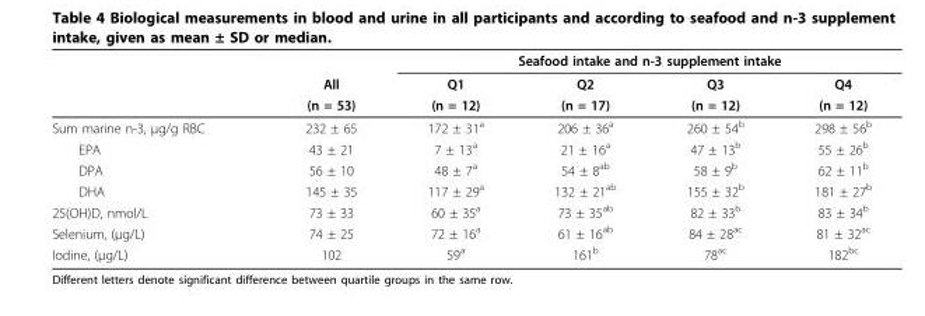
<table><thead><tr><td rowspan="3"></td><td rowspan="3">All (n = 53)</td><td colspan="4">Seafood intake and n-3 supplement intake</td></tr><tr><td rowspan="2">Q1 (n = 12)</td><td rowspan="2">Q2 (n = 17)</td><td rowspan="2">Q3 (n = 12)</td><td rowspan="2">Q4 (n = 12)</td></tr><tr></tr></thead><tbody><tr><td>Sum marine n-3, μg/g RBC</td><td>232 ± 65</td><td>172 ± 31<sup>a</sup></td><td>206 ± 36<sup>a</sup></td><td>260 ± 54<sup>b</sup></td><td>298 ± 56<sup>b</sup></td></tr><tr><td>EPA</td><td>43 ± 21</td><td>7 ± 13<sup>a</sup></td><td>21 ± 16<sup>a</sup></td><td>47 ± 13<sup>b</sup></td><td>55 ± 26<sup>b</sup></td></tr><tr><td>DPA</td><td>56 ± 10</td><td>48 ± 7<sup>a</sup></td><td>54 ± 8<sup>ab</sup></td><td>58 ± 9<sup>b</sup></td><td>62 ± 11<sup>b</sup></td></tr><tr><td>DHA</td><td>145 ± 35</td><td>117 ± 29<sup>a</sup></td><td>132 ± 21<sup>ab</sup></td><td>155 ± 32<sup>b</sup></td><td>181 ± 27<sup>b</sup></td></tr><tr><td>25(OH)D, nmol/L</td><td>73 ± 33</td><td>60 ± 35<sup>a</sup></td><td>73 ± 35<sup>ab</sup></td><td>82 ± 33<sup>b</sup></td><td>83 ± 34<sup>b</sup></td></tr><tr><td>Selenium, (μg/L)</td><td>74 ± 25</td><td>72 ± 16<sup>a</sup></td><td>61 ± 16<sup>ab</sup></td><td>84 ± 28<sup>ac</sup></td><td>81 ± 32<sup>ac</sup></td></tr><tr><td>Iodine, (μg/L)</td><td>102</td><td>59<sup>a</sup></td><td>161<sup>b</sup></td><td>78<sup>ac</sup></td><td>182<sup>bc</sup></td></tr></tbody></table>